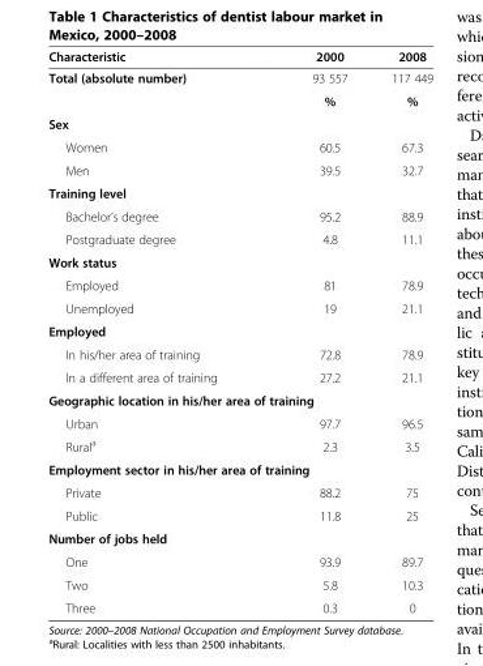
<table><thead><tr><td>Characteristic</td><td>2000</td><td>2008</td></tr></thead><tbody><tr><td rowspan="2">Total (absolute number)</td><td>93 557</td><td>117 449</td></tr><tr><td>%</td><td>%</td></tr><tr><td colspan="3">Sex</td></tr><tr><td>Women</td><td>60.5</td><td>67.3</td></tr><tr><td>Men</td><td>39.5</td><td>32.7</td></tr><tr><td colspan="3">Training level</td></tr><tr><td>Bachelor’s degree</td><td>95.2</td><td>88.9</td></tr><tr><td>Postgraduate degree</td><td>4.8</td><td>11.1</td></tr><tr><td colspan="3">Work status</td></tr><tr><td>Employed</td><td>81</td><td>78.9</td></tr><tr><td>Unemployed</td><td>19</td><td>21.1</td></tr><tr><td colspan="3">Employed</td></tr><tr><td>In his/her area of training</td><td>72.8</td><td>78.9</td></tr><tr><td>In a different area of training</td><td>27.2</td><td>21.1</td></tr><tr><td colspan="3">Geographic location in his/her area of training</td></tr><tr><td>Urban</td><td>97.7</td><td>96.5</td></tr><tr><td>Rural<sup>a</sup></td><td>2.3</td><td>3.5</td></tr><tr><td colspan="3">Employment sector in his/her area of training</td></tr><tr><td>Private</td><td>88.2</td><td>75</td></tr><tr><td>Public</td><td>11.8</td><td>25</td></tr><tr><td colspan="3">Number of jobs held</td></tr><tr><td>One</td><td>93.9</td><td>89.7</td></tr><tr><td>Two</td><td>5.8</td><td>10.3</td></tr><tr><td>Three</td><td>0.3</td><td>0</td></tr></tbody></table>